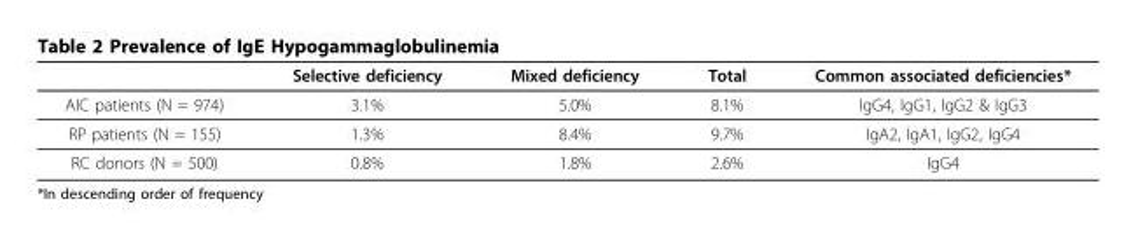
<table><thead><tr><td></td><td>Selective deficiency</td><td>Mixed deficiency</td><td>Total</td><td>Common associated deficiencies*</td></tr></thead><tbody><tr><td>AIC patients (N = 974)</td><td>3.1%</td><td>5.0%</td><td>8.1%</td><td>IgG4, IgG1, IgG2 &amp; IgG3</td></tr><tr><td>RP patients (N = 155)</td><td>1.3%</td><td>8.4%</td><td>9.7%</td><td>IgA2, IgA1, IgG2, IgG4</td></tr><tr><td>RC donors (N = 500)</td><td>0.8%</td><td>1.8%</td><td>2.6%</td><td>IgG4</td></tr></tbody></table>